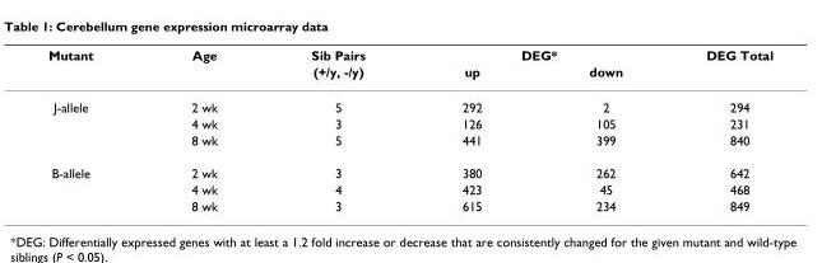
<table><thead><tr><td rowspan="2">Mutant</td><td rowspan="2">Age</td><td rowspan="2">Sib Pairs (+/y, -/y)</td><td colspan="2">DEG*</td><td rowspan="2">DEG Total</td></tr><tr><td>up</td><td>down</td></tr></thead><tbody><tr><td rowspan="3">J-allele</td><td>2 wk</td><td>5</td><td>292</td><td>2</td><td>294</td></tr><tr><td>4 wk</td><td>3</td><td>126</td><td>105</td><td>231</td></tr><tr><td>8 wk</td><td>5</td><td>441</td><td>399</td><td>840</td></tr><tr><td rowspan="3">B-allele</td><td>2 wk</td><td>3</td><td>380</td><td>262</td><td>642</td></tr><tr><td>4 wk</td><td>4</td><td>423</td><td>45</td><td>468</td></tr><tr><td>8 wk</td><td>3</td><td>615</td><td>234</td><td>849</td></tr></tbody></table>